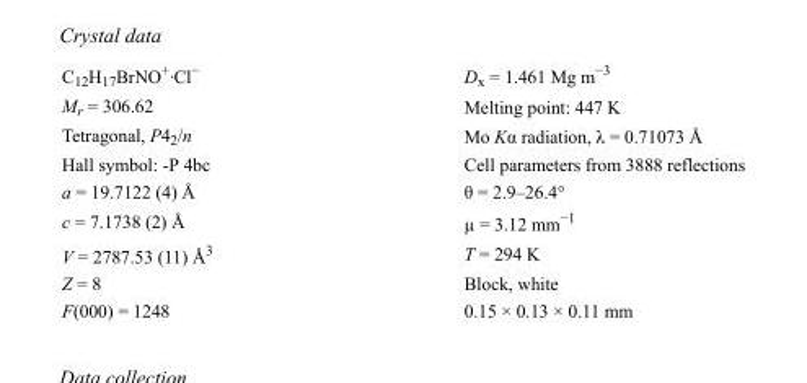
<table><tbody><tr><td>C<sub>12</sub>H<sub>17</sub>BrNO<sup>+</sup>·Cl<sup>−</sup></td><td>D<sub>x</sub> = 1.461 Mg m<sup>−3</sup></td></tr><tr><td>M<sub>r</sub> = 306.62</td><td>Melting point: 447 K</td></tr><tr><td>Tetragonal, P4<sub>2</sub>/n</td><td>Mo Kα radiation, λ = 0.71073 Å</td></tr><tr><td>Hall symbol: -P 4bc</td><td>Cell parameters from 3888 reflections</td></tr><tr><td>a = 19.7122 (4) Å</td><td>θ = 2.9–26.4°</td></tr><tr><td>c = 7.1738 (2) Å</td><td>µ = 3.12 mm<sup>−1</sup></td></tr><tr><td>V = 2787.53 (11) Å<sup>3</sup></td><td>T = 294 K</td></tr><tr><td>Z = 8</td><td>Block, white</td></tr><tr><td>F(000) = 1248</td><td>0.15 × 0.13 × 0.11 mm</td></tr></tbody></table>